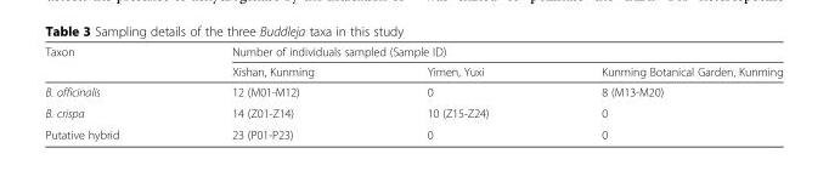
<table><thead><tr><td rowspan="2">Taxon</td><td colspan="3">Number of individuals sampled (Sample ID)</td></tr><tr><td>Xishan, Kunming</td><td>Yimen, Yuxi</td><td>Kunming Botanical Garden, Kunming</td></tr></thead><tbody><tr><td>B. officinalis</td><td>12 (M01-M12)</td><td>0</td><td>8 (M13-M20)</td></tr><tr><td>B. crispa</td><td>14 (Z01-Z14)</td><td>10 (Z15-Z24)</td><td>0</td></tr><tr><td>Putative hybrid</td><td>23 (P01-P23)</td><td>0</td><td>0</td></tr></tbody></table>